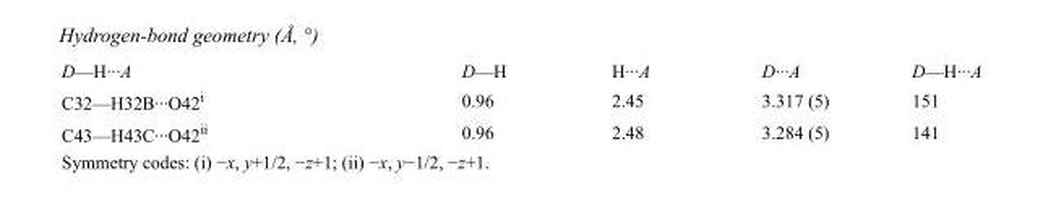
<table><tbody><tr><td>D—H···A</td><td>D—H</td><td>H···A</td><td>D···A</td><td>D—H···A</td></tr><tr><td>C32—H32B···O42<sup>i</sup></td><td>0.96</td><td>2.45</td><td>3.317 (5)</td><td>151</td></tr><tr><td>C43—H43C···O42<sup>ii</sup></td><td>0.96</td><td>2.48</td><td>3.284 (5)</td><td>141</td></tr></tbody></table>